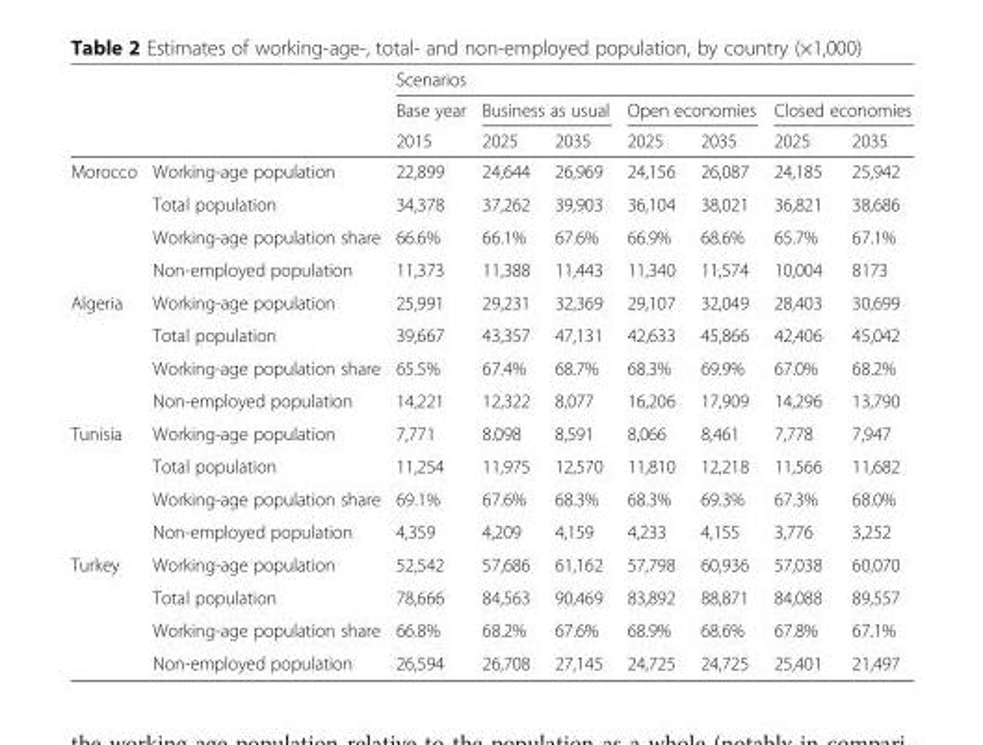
<table><thead><tr><td rowspan="3"></td><td rowspan="3"></td><td colspan="7">Scenarios</td></tr><tr><td rowspan="2">Base year 2015</td><td colspan="2">Business as usual</td><td colspan="2">Open economies</td><td colspan="2">Closed economies</td></tr><tr><td>2025</td><td>2035</td><td>2025</td><td>2035</td><td>2025</td><td>2035</td></tr></thead><tbody><tr><td rowspan="4">Morocco</td><td>Working-age population</td><td>22,899</td><td>24,644</td><td>26,969</td><td>24,156</td><td>26,087</td><td>24,185</td><td>25,942</td></tr><tr><td>Total population</td><td>34,378</td><td>37,262</td><td>39,903</td><td>36,104</td><td>38,021</td><td>36,821</td><td>38,686</td></tr><tr><td>Working-age population share</td><td>66.6%</td><td>66.1%</td><td>67.6%</td><td>66.9%</td><td>68.6%</td><td>65.7%</td><td>67.1%</td></tr><tr><td>Non-employed population</td><td>11,373</td><td>11,388</td><td>11,443</td><td>11,340</td><td>11,574</td><td>10,004</td><td>8173</td></tr><tr><td rowspan="4">Algeria</td><td>Working-age population</td><td>25,991</td><td>29,231</td><td>32,369</td><td>29,107</td><td>32,049</td><td>28,403</td><td>30,699</td></tr><tr><td>Total population</td><td>39,667</td><td>43,357</td><td>47,131</td><td>42,633</td><td>45,866</td><td>42,406</td><td>45,042</td></tr><tr><td>Working-age population share</td><td>65.5%</td><td>67.4%</td><td>68.7%</td><td>68.3%</td><td>69.9%</td><td>67.0%</td><td>68.2%</td></tr><tr><td>Non-employed population</td><td>14,221</td><td>12,322</td><td>8,077</td><td>16,206</td><td>17,909</td><td>14,296</td><td>13,790</td></tr><tr><td rowspan="4">Tunisia</td><td>Working-age population</td><td>7,771</td><td>8.098</td><td>8,591</td><td>8,066</td><td>8,461</td><td>7,778</td><td>7,947</td></tr><tr><td>Total population</td><td>11,254</td><td>11,975</td><td>12,570</td><td>11,810</td><td>12,218</td><td>11,566</td><td>11,682</td></tr><tr><td>Working-age population share</td><td>69.1%</td><td>67.6%</td><td>68.3%</td><td>68.3%</td><td>69.3%</td><td>67.3%</td><td>68.0%</td></tr><tr><td>Non-employed population</td><td>4,359</td><td>4,209</td><td>4,159</td><td>4,233</td><td>4,155</td><td>3,776</td><td>3,252</td></tr><tr><td rowspan="4">Turkey</td><td>Working-age population</td><td>52,542</td><td>57,686</td><td>61,162</td><td>57,798</td><td>60,936</td><td>57,038</td><td>60,070</td></tr><tr><td>Total population</td><td>78,666</td><td>84,563</td><td>90,469</td><td>83,892</td><td>88,871</td><td>84,088</td><td>89,557</td></tr><tr><td>Working-age population share</td><td>66.8%</td><td>68.2%</td><td>67.6%</td><td>68.9%</td><td>68.6%</td><td>67.8%</td><td>67.1%</td></tr><tr><td>Non-employed population</td><td>26,594</td><td>26,708</td><td>27,145</td><td>24,725</td><td>24,725</td><td>25,401</td><td>21,497</td></tr></tbody></table>